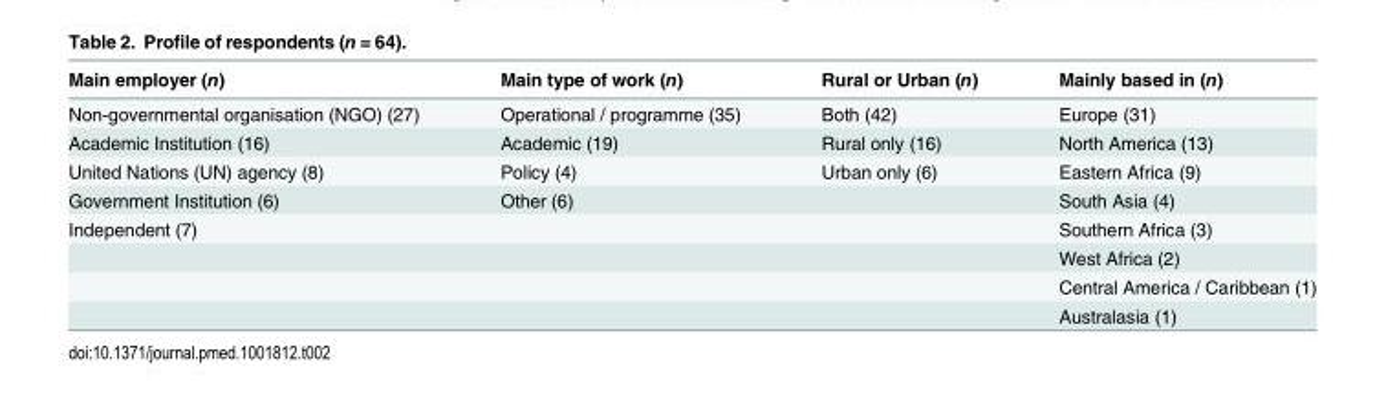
<table><thead><tr><td>Main employer (n)</td><td>Main type of work (n)</td><td>Rural or Urban (n)</td><td>Mainly based in (n)</td></tr></thead><tbody><tr><td>Non-governmental organisation (NGO) (27)</td><td>Operational / programme (35)</td><td>Both (42)</td><td>Europe (31)</td></tr><tr><td>Academic Institution (16)</td><td>Academic (19)</td><td>Rural only (16)</td><td>North America (13)</td></tr><tr><td>United Nations (UN) agency (8)</td><td>Policy (4)</td><td>Urban only (6)</td><td>Eastern Africa (9)</td></tr><tr><td>Government Institution (6)</td><td>Other (6)</td><td></td><td>South Asia (4)</td></tr><tr><td rowspan="4">Independent (7)</td><td></td><td></td><td>Southern Africa (3)</td></tr><tr><td></td><td></td><td>West Africa (2)</td></tr><tr><td></td><td></td><td>Central America / Caribbean (1)</td></tr><tr><td></td><td></td><td>Australasia (1)</td></tr></tbody></table>